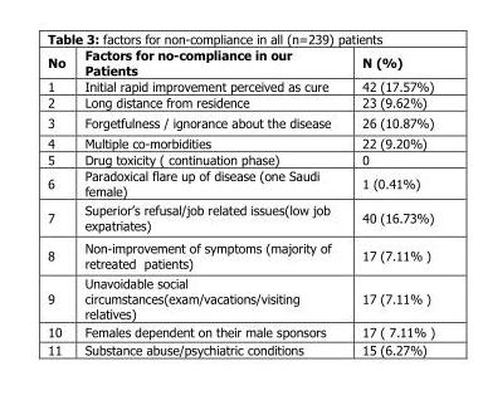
<table><thead><tr><td>No</td><td>Factors for no-compliance in our Patients</td><td>N (%)</td></tr></thead><tbody><tr><td>1</td><td>Initial rapid improvement perceived as cure</td><td>42 (17.57%)</td></tr><tr><td>2</td><td>Long distance from residence</td><td>23 (9.62%)</td></tr><tr><td>3</td><td>Forgetfulness / ignorance about the disease</td><td>26 (10.87%)</td></tr><tr><td>4</td><td>Multiple co-morbidities</td><td>22 (9.20%)</td></tr><tr><td>5</td><td>Drug toxicity ( continuation phase)</td><td>0</td></tr><tr><td>6</td><td>Paradoxical flare up of disease (one Saudi female)</td><td>1 (0.41%)</td></tr><tr><td>7</td><td>Superior’s refusal/job related issues(low job expatriates)</td><td>40 (16.73%)</td></tr><tr><td>8</td><td>Non-improvement of symptoms (majority of retreated patients)</td><td>17 (7.11% )</td></tr><tr><td>9</td><td>Unavoidable social circumstances(exam/vacations/visiting relatives)</td><td>17 (7.11% )</td></tr><tr><td>10</td><td>Females dependent on their male sponsors</td><td>17 ( 7.11% )</td></tr><tr><td>11</td><td>Substance abuse/psychiatric conditions</td><td>15 (6.27%)</td></tr></tbody></table>